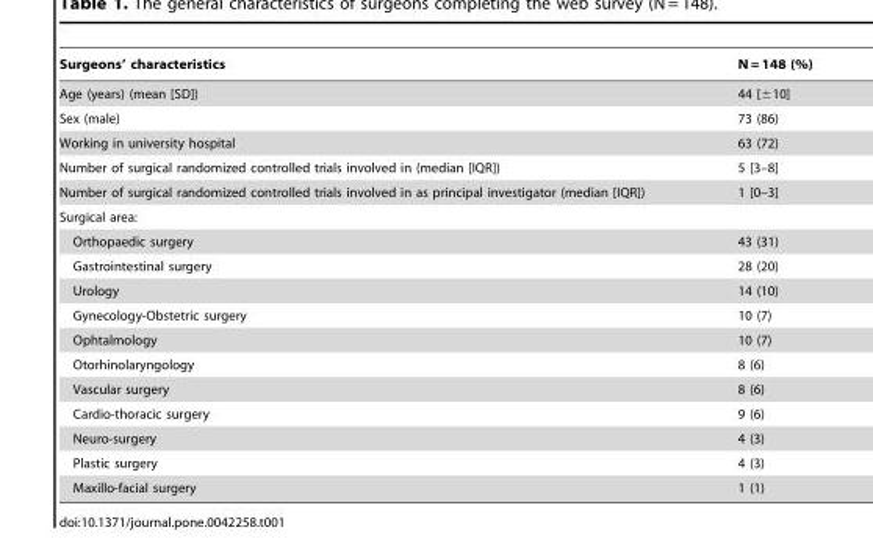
<table><thead><tr><td>Surgeons’ characteristics</td><td>N = 148 (%)</td></tr></thead><tbody><tr><td>Age (years) (mean [SD])</td><td>44 [±10]</td></tr><tr><td>Sex (male)</td><td>73 (86)</td></tr><tr><td>Working in university hospital</td><td>63 (72)</td></tr><tr><td>Number of surgical randomized controlled trials involved in (median [IQR])</td><td>5 [3–8]</td></tr><tr><td>Number of surgical randomized controlled trials involved in as principal investigator (median [IQR])</td><td>1 [0–3]</td></tr><tr><td colspan="2">Surgical area:</td></tr><tr><td>Orthopaedic surgery</td><td>43 (31)</td></tr><tr><td>Gastrointestinal surgery</td><td>28 (20)</td></tr><tr><td>Urology</td><td>14 (10)</td></tr><tr><td>Gynecology-Obstetric surgery</td><td>10 (7)</td></tr><tr><td>Ophtalmology</td><td>10 (7)</td></tr><tr><td>Otorhinolaryngology</td><td>8 (6)</td></tr><tr><td>Vascular surgery</td><td>8 (6)</td></tr><tr><td>Cardio-thoracic surgery</td><td>9 (6)</td></tr><tr><td>Neuro-surgery</td><td>4 (3)</td></tr><tr><td>Plastic surgery</td><td>4 (3)</td></tr><tr><td>Maxillo-facial surgery</td><td>1 (1)</td></tr></tbody></table>